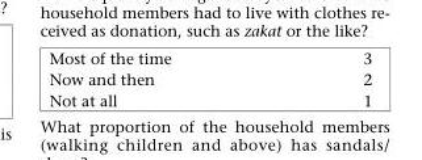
<table><tbody><tr><td>Most of the time</td><td>3</td></tr><tr><td>Now and then</td><td>2</td></tr><tr><td>Not at all</td><td>1</td></tr></tbody></table>